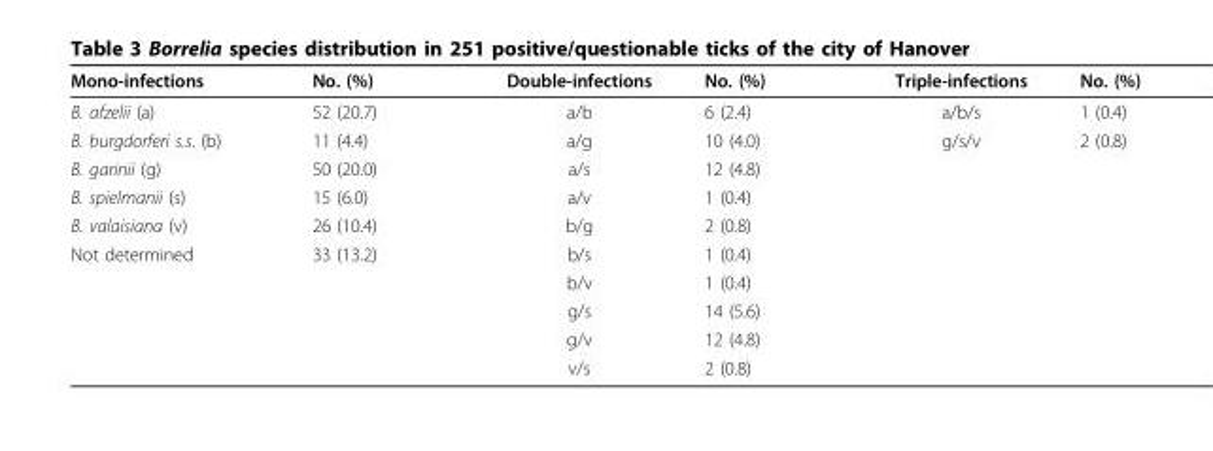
<table><thead><tr><td>Mono-infections</td><td>No. (%)</td><td>Double-infections</td><td>No. (%)</td><td>Triple-infections</td><td>No. (%)</td></tr></thead><tbody><tr><td>B. afzelii (a)</td><td>52 (20.7)</td><td>a/b</td><td>6 (2.4)</td><td>a/b/s</td><td>1 (0.4)</td></tr><tr><td>B. burgdorferi s.s. (b)</td><td>11 (4.4)</td><td>a/g</td><td>10 (4.0)</td><td>g/s/v</td><td>2 (0.8)</td></tr><tr><td>B. garinii (g)</td><td>50 (20.0)</td><td>a/s</td><td>12 (4.8)</td><td></td><td></td></tr><tr><td>B. spielmanii (s)</td><td>15 (6.0)</td><td>a/v</td><td>1 (0.4)</td><td></td><td></td></tr><tr><td>B. valaisiana (v)</td><td>26 (10.4)</td><td>b/g</td><td>2 (0.8)</td><td></td><td></td></tr><tr><td rowspan="5">Not determined</td><td>33 (13.2)</td><td>b/s</td><td>1 (0.4)</td><td></td><td></td></tr><tr><td></td><td>b/v</td><td>1 (0.4)</td><td></td><td></td></tr><tr><td></td><td>g/s</td><td>14 (5.6)</td><td></td><td></td></tr><tr><td></td><td>g/v</td><td>12 (4.8)</td><td></td><td></td></tr><tr><td></td><td>v/s</td><td>2 (0.8)</td><td></td><td></td></tr></tbody></table>